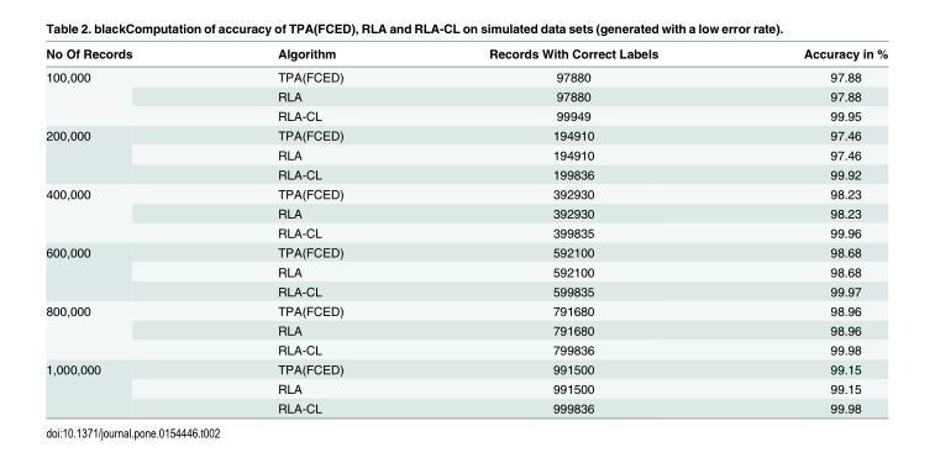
<table><thead><tr><td>No Of Records</td><td>Algorithm</td><td>Records With Correct Labels</td><td>Accuracy in %</td></tr></thead><tbody><tr><td rowspan="3">100,000</td><td>TPA(FCED)</td><td>97880</td><td>97.88</td></tr><tr><td>RLA</td><td>97880</td><td>97.88</td></tr><tr><td>RLA-CL</td><td>99949</td><td>99.95</td></tr><tr><td rowspan="3">200,000</td><td>TPA(FCED)</td><td>194910</td><td>97.46</td></tr><tr><td>RLA</td><td>194910</td><td>97.46</td></tr><tr><td>RLA-CL</td><td>199836</td><td>99.92</td></tr><tr><td rowspan="3">400,000</td><td>TPA(FCED)</td><td>392930</td><td>98.23</td></tr><tr><td>RLA</td><td>392930</td><td>98.23</td></tr><tr><td>RLA-CL</td><td>399835</td><td>99.96</td></tr><tr><td rowspan="3">600,000</td><td>TPA(FCED)</td><td>592100</td><td>98.68</td></tr><tr><td>RLA</td><td>592100</td><td>98.68</td></tr><tr><td>RLA-CL</td><td>599835</td><td>99.97</td></tr><tr><td rowspan="3">800,000</td><td>TPA(FCED)</td><td>791680</td><td>98.96</td></tr><tr><td>RLA</td><td>791680</td><td>98.96</td></tr><tr><td>RLA-CL</td><td>799836</td><td>99.98</td></tr><tr><td rowspan="3">1,000,000</td><td>TPA(FCED)</td><td>991500</td><td>99.15</td></tr><tr><td>RLA</td><td>991500</td><td>99.15</td></tr><tr><td>RLA-CL</td><td>999836</td><td>99.98</td></tr></tbody></table>